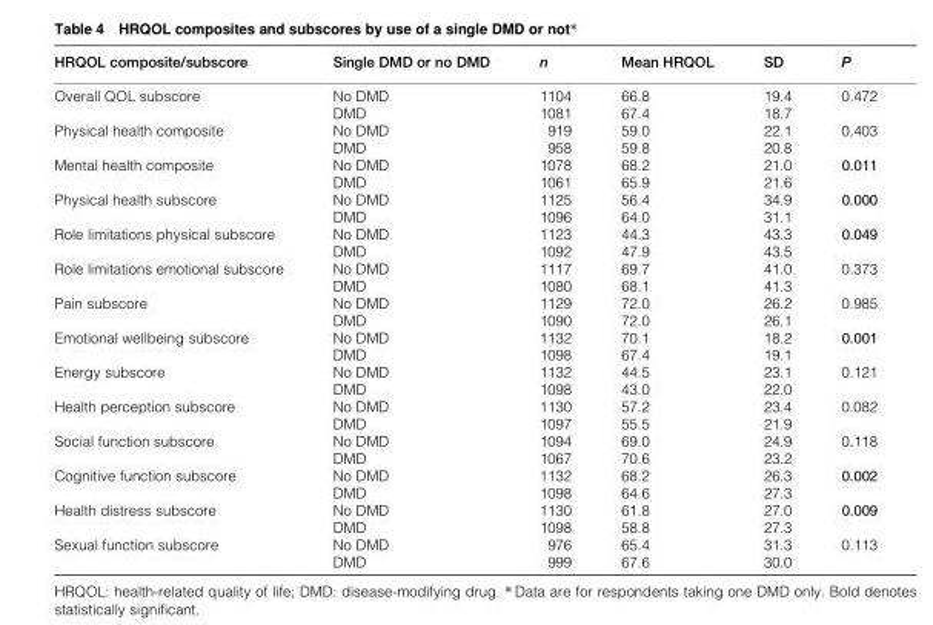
<table><thead><tr><td>HRQOL composite/subscore</td><td>Single DMD or no DMD</td><td>n</td><td>Mean HRQOL</td><td>SD</td><td>P</td></tr></thead><tbody><tr><td rowspan="2">Overall QOL subscore</td><td>No DMD</td><td>1104</td><td>66.8</td><td>19.4</td><td>0.472</td></tr><tr><td>DMD</td><td>1081</td><td>67.4</td><td>18.7</td><td></td></tr><tr><td rowspan="2">Physical health composite</td><td>No DMD</td><td>919</td><td>59.0</td><td>22.1</td><td>0.403</td></tr><tr><td>DMD</td><td>958</td><td>59.8</td><td>20.8</td><td></td></tr><tr><td rowspan="2">Mental health composite</td><td>No DMD</td><td>1078</td><td>68.2</td><td>21.0</td><td>0.011</td></tr><tr><td>DMD</td><td>1061</td><td>65.9</td><td>21.6</td><td></td></tr><tr><td rowspan="2">Physical health subscore</td><td>No DMD</td><td>1125</td><td>56.4</td><td>34.9</td><td>0.000</td></tr><tr><td>DMD</td><td>1096</td><td>64.0</td><td>31.1</td><td></td></tr><tr><td rowspan="2">Role limitations physical subscore</td><td>No DMD</td><td>1123</td><td>44.3</td><td>43.3</td><td>0.049</td></tr><tr><td>DMD</td><td>1092</td><td>47.9</td><td>43.5</td><td></td></tr><tr><td rowspan="2">Role limitations emotional subscore</td><td>No DMD</td><td>1117</td><td>69.7</td><td>41.0</td><td>0.373</td></tr><tr><td>DMD</td><td>1080</td><td>68.1</td><td>41.3</td><td></td></tr><tr><td rowspan="2">Pain subscore</td><td>No DMD</td><td>1129</td><td>72.0</td><td>26.2</td><td>0.985</td></tr><tr><td>DMD</td><td>1090</td><td>72.0</td><td>26.1</td><td></td></tr><tr><td rowspan="2">Emotional wellbeing subscore</td><td>No DMD</td><td>1132</td><td>70.1</td><td>18.2</td><td>0.001</td></tr><tr><td>DMD</td><td>1098</td><td>67.4</td><td>19.1</td><td></td></tr><tr><td rowspan="2">Energy subscore</td><td>No DMD</td><td>1132</td><td>44.5</td><td>23.1</td><td>0.121</td></tr><tr><td>DMD</td><td>1098</td><td>43.0</td><td>22.0</td><td></td></tr><tr><td rowspan="2">Health perception subscore</td><td>No DMD</td><td>1130</td><td>57.2</td><td>23.4</td><td>0.082</td></tr><tr><td>DMD</td><td>1097</td><td>55.5</td><td>21.9</td><td></td></tr><tr><td rowspan="2">Social function subscore</td><td>No DMD</td><td>1094</td><td>69.0</td><td>24.9</td><td>0.118</td></tr><tr><td>DMD</td><td>1067</td><td>70.6</td><td>23.2</td><td></td></tr><tr><td rowspan="2">Cognitive function subscore</td><td>No DMD</td><td>1132</td><td>68.2</td><td>26.3</td><td>0.002</td></tr><tr><td>DMD</td><td>1098</td><td>64.6</td><td>27.3</td><td></td></tr><tr><td rowspan="2">Health distress subscore</td><td>No DMD</td><td>1130</td><td>61.8</td><td>27.0</td><td>0.009</td></tr><tr><td>DMD</td><td>1098</td><td>58.8</td><td>27.3</td><td></td></tr><tr><td rowspan="2">Sexual function subscore</td><td>No DMD</td><td>976</td><td>65.4</td><td>31.3</td><td>0.113</td></tr><tr><td>DMD</td><td>999</td><td>67.6</td><td>30.0</td><td></td></tr></tbody></table>